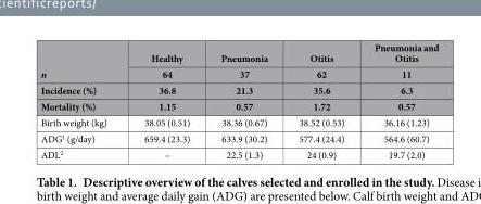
<table><thead><tr><td rowspan="4">n Incidence (%) Mortality (%)</td><td rowspan="4">Healthy 64 36.8 1.15</td><td rowspan="4">Pneumonia 37 21.3 0.57</td><td rowspan="4">Otitis 62 35.6 1.72</td><td rowspan="4">Pneumonia and Otitis 11 6.3 0.57</td></tr><tr></tr><tr></tr><tr></tr></thead><tbody><tr><td>Birth weight (kg)</td><td>38.05 (0.51)</td><td>38.36 (0.67)</td><td>38.52 (0.53)</td><td>36.16 (1.23)</td></tr><tr><td>ADG<sup>1</sup> (g/day)</td><td>659.4 (23.3)</td><td>633.9 (30.2)</td><td>577.4 (24.4)</td><td>564.6 (60.7)</td></tr><tr><td>ADL<sup>2</sup></td><td>–</td><td>22.5 (1.3)</td><td>24 (0.9)</td><td>19.7 (2.0)</td></tr></tbody></table>